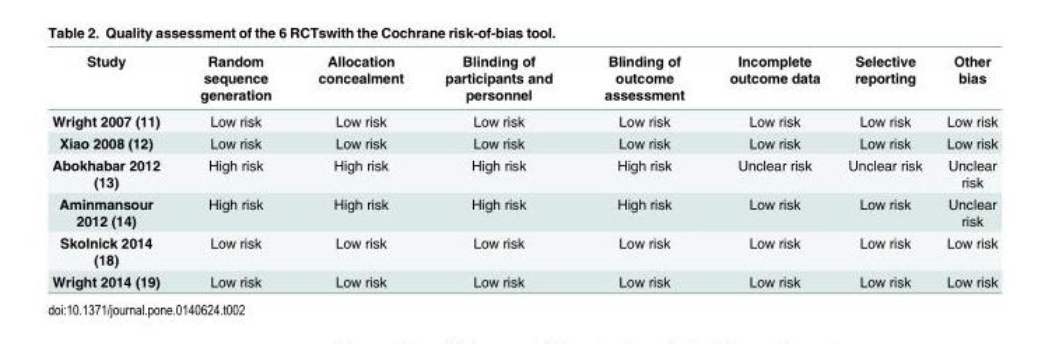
<table><thead><tr><td>Study</td><td>Random sequence generation</td><td>Allocation concealment</td><td>Blinding of participants and personnel</td><td>Blinding of outcome assessment</td><td>Incomplete outcome data</td><td>Selective reporting</td><td>Other bias</td></tr></thead><tbody><tr><td>Wright 2007 (11)</td><td>Low risk</td><td>Low risk</td><td>Low risk</td><td>Low risk</td><td>Low risk</td><td>Low risk</td><td>Low risk</td></tr><tr><td>Xiao 2008 (12)</td><td>Low risk</td><td>Low risk</td><td>Low risk</td><td>Low risk</td><td>Low risk</td><td>Low risk</td><td>Low risk</td></tr><tr><td>Abokhabar 2012 (13)</td><td>High risk</td><td>High risk</td><td>High risk</td><td>High risk</td><td>Unclear risk</td><td>Unclear risk</td><td>Unclear risk</td></tr><tr><td>Aminmansour 2012 (14)</td><td>High risk</td><td>High risk</td><td>High risk</td><td>High risk</td><td>Low risk</td><td>Low risk</td><td>Unclear risk</td></tr><tr><td>Skolnick 2014 (18)</td><td>Low risk</td><td>Low risk</td><td>Low risk</td><td>Low risk</td><td>Low risk</td><td>Low risk</td><td>Low risk</td></tr><tr><td>Wright 2014 (19)</td><td>Low risk</td><td>Low risk</td><td>Low risk</td><td>Low risk</td><td>Low risk</td><td>Low risk</td><td>Low risk</td></tr></tbody></table>